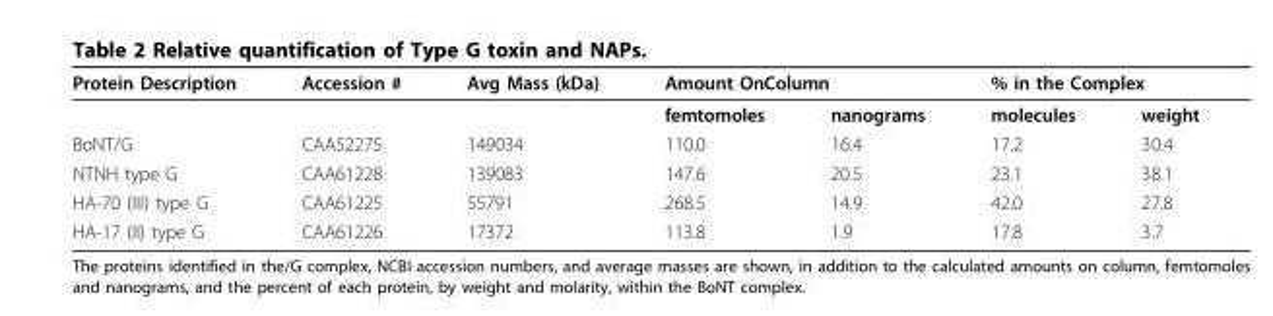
<table><thead><tr><td rowspan="2">Protein Description</td><td rowspan="2">Accession #</td><td rowspan="2">Avg Mass (kDa)</td><td colspan="2">Amount OnColumn</td><td colspan="2">% in the Complex</td></tr><tr><td>femtomoles</td><td>nanograms</td><td>molecules</td><td>weight</td></tr></thead><tbody><tr><td>BoNT/G</td><td>CAA52275</td><td>149034</td><td>110.0</td><td>16.4</td><td>17.2</td><td>30.4</td></tr><tr><td>NTNH type G</td><td>CAA61228</td><td>139083</td><td>147.6</td><td>20.5</td><td>23.1</td><td>38.1</td></tr><tr><td>HA-70 (III) type G</td><td>CAA61225</td><td>55791</td><td>268.5</td><td>14.9</td><td>42.0</td><td>27.8</td></tr><tr><td>HA-17 (II) type G</td><td>CAA61226</td><td>17372</td><td>113.8</td><td>1.9</td><td>17.8</td><td>3.7</td></tr></tbody></table>